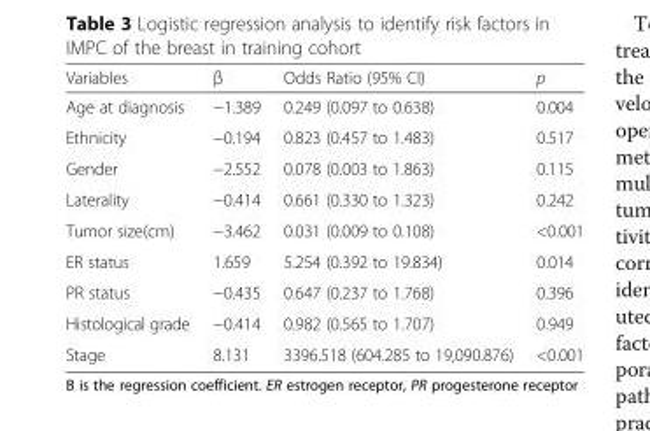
<table><thead><tr><td>Variables</td><td>β</td><td>Odds Ratio (95% CI)</td><td>p</td></tr></thead><tbody><tr><td>Age at diagnosis</td><td>−1.389</td><td>0.249 (0.097 to 0.638)</td><td>0.004</td></tr><tr><td>Ethnicity</td><td>−0.194</td><td>0.823 (0.457 to 1.483)</td><td>0.517</td></tr><tr><td>Gender</td><td>−2.552</td><td>0.078 (0.003 to 1.863)</td><td>0.115</td></tr><tr><td>Laterality</td><td>−0.414</td><td>0.661 (0.330 to 1.323)</td><td>0.242</td></tr><tr><td>Tumor size(cm)</td><td>−3.462</td><td>0.031 (0.009 to 0.108)</td><td>&lt;0.001</td></tr><tr><td>ER status</td><td>1.659</td><td>5.254 (0.392 to 19.834)</td><td>0.014</td></tr><tr><td>PR status</td><td>−0.435</td><td>0.647 (0.237 to 1.768)</td><td>0.396</td></tr><tr><td>Histological grade</td><td>−0.414</td><td>0.982 (0.565 to 1.707)</td><td>0.949</td></tr><tr><td>Stage</td><td>8.131</td><td>3396.518 (604.285 to 19,090.876)</td><td>&lt;0.001</td></tr></tbody></table>